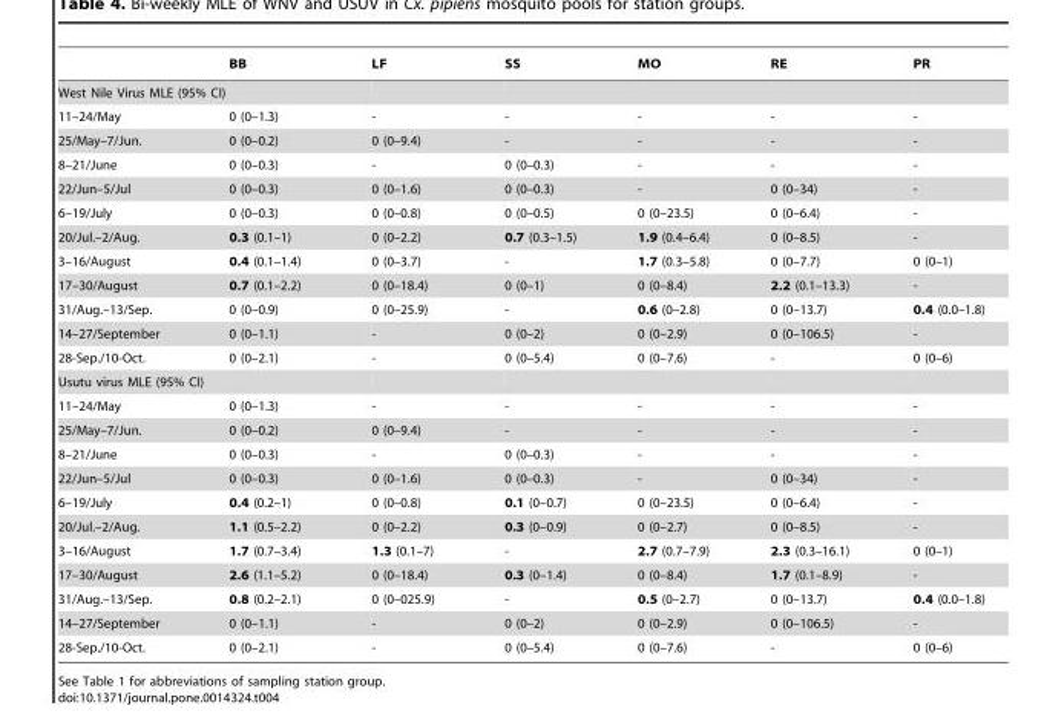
<table><thead><tr><td></td><td>BB</td><td>LF</td><td>SS</td><td>MO</td><td>RE</td><td>PR</td></tr></thead><tbody><tr><td colspan="7">West Nile Virus MLE (95% CI)</td></tr><tr><td>11–24/May</td><td>0 (0–1.3)</td><td>-</td><td>-</td><td>-</td><td>-</td><td>-</td></tr><tr><td>25/May–7/Jun.</td><td>0 (0–0.2)</td><td>0 (0–9.4)</td><td>-</td><td>-</td><td>-</td><td>-</td></tr><tr><td>8–21/June</td><td>0 (0–0.3)</td><td>-</td><td>0 (0–0.3)</td><td>-</td><td>-</td><td>-</td></tr><tr><td>22/Jun–5/Jul</td><td>0 (0–0.3)</td><td>0 (0–1.6)</td><td>0 (0–0.3)</td><td>-</td><td>0 (0–34)</td><td>-</td></tr><tr><td>6–19/July</td><td>0 (0–0.3)</td><td>0 (0–0.8)</td><td>0 (0–0.5)</td><td>0 (0–23.5)</td><td>0 (0–6.4)</td><td>-</td></tr><tr><td>20/Jul.–2/Aug.</td><td>0.3 (0.1–1)</td><td>0 (0–2.2)</td><td>0.7 (0.3–1.5)</td><td>1.9 (0.4–6.4)</td><td>0 (0–8.5)</td><td>-</td></tr><tr><td>3–16/August</td><td>0.4 (0.1–1.4)</td><td>0 (0–3.7)</td><td>-</td><td>1.7 (0.3–5.8)</td><td>0 (0–7.7)</td><td>0 (0–1)</td></tr><tr><td>17–30/August</td><td>0.7 (0.1–2.2)</td><td>0 (0–18.4)</td><td>0 (0–1)</td><td>0 (0–8.4)</td><td>2.2 (0.1–13.3)</td><td>-</td></tr><tr><td>31/Aug.–13/Sep.</td><td>0 (0–0.9)</td><td>0 (0–25.9)</td><td>-</td><td>0.6 (0–2.8)</td><td>0 (0–13.7)</td><td>0.4 (0.0–1.8)</td></tr><tr><td>14–27/September</td><td>0 (0–1.1)</td><td>-</td><td>0 (0–2)</td><td>0 (0–2.9)</td><td>0 (0–106.5)</td><td>-</td></tr><tr><td>28-Sep./10-Oct.</td><td>0 (0–2.1)</td><td>-</td><td>0 (0–5.4)</td><td>0 (0–7.6)</td><td>-</td><td>0 (0–6)</td></tr><tr><td colspan="7">Usutu virus MLE (95% CI)</td></tr><tr><td>11–24/May</td><td>0 (0–1.3)</td><td>-</td><td>-</td><td>-</td><td>-</td><td>-</td></tr><tr><td>25/May–7/Jun.</td><td>0 (0–0.2)</td><td>0 (0–9.4)</td><td>-</td><td>-</td><td>-</td><td>-</td></tr><tr><td>8–21/June</td><td>0 (0–0.3)</td><td>-</td><td>0 (0–0.3)</td><td>-</td><td>-</td><td>-</td></tr><tr><td>22/Jun–5/Jul</td><td>0 (0–0.3)</td><td>0 (0–1.6)</td><td>0 (0–0.3)</td><td>-</td><td>0 (0–34)</td><td>-</td></tr><tr><td>6–19/July</td><td>0.4 (0.2–1)</td><td>0 (0–0.8)</td><td>0.1 (0–0.7)</td><td>0 (0–23.5)</td><td>0 (0–6.4)</td><td>-</td></tr><tr><td>20/Jul.–2/Aug.</td><td>1.1 (0.5–2.2)</td><td>0 (0–2.2)</td><td>0.3 (0–0.9)</td><td>0 (0–2.7)</td><td>0 (0–8.5)</td><td>-</td></tr><tr><td>3–16/August</td><td>1.7 (0.7–3.4)</td><td>1.3 (0.1–7)</td><td>-</td><td>2.7 (0.7–7.9)</td><td>2.3 (0.3–16.1)</td><td>0 (0–1)</td></tr><tr><td>17–30/August</td><td>2.6 (1.1–5.2)</td><td>0 (0–18.4)</td><td>0.3 (0–1.4)</td><td>0 (0–8.4)</td><td>1.7 (0.1–8.9)</td><td>-</td></tr><tr><td>31/Aug.–13/Sep.</td><td>0.8 (0.2–2.1)</td><td>0 (0–025.9)</td><td>-</td><td>0.5 (0–2.7)</td><td>0 (0–13.7)</td><td>0.4 (0.0–1.8)</td></tr><tr><td>14–27/September</td><td>0 (0–1.1)</td><td>-</td><td>0 (0–2)</td><td>0 (0–2.9)</td><td>0 (0–106.5)</td><td>-</td></tr><tr><td>28-Sep./10-Oct.</td><td>0 (0–2.1)</td><td>-</td><td>0 (0–5.4)</td><td>0 (0–7.6)</td><td>-</td><td>0 (0–6)</td></tr></tbody></table>